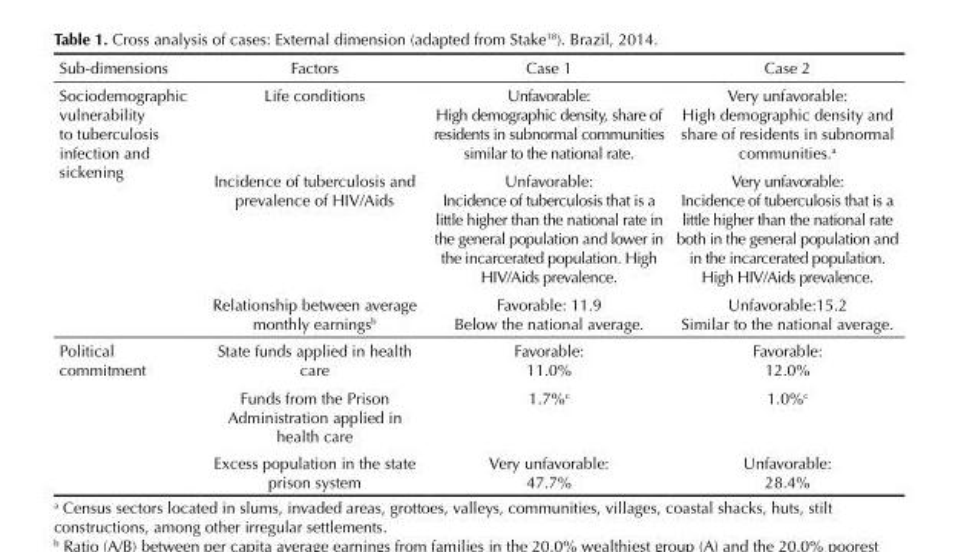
<table><thead><tr><td>Sub-dimensions</td><td>Factors</td><td>Case 1</td><td>Case 2</td></tr></thead><tbody><tr><td rowspan="3">Sociodemographic vulnerability to tuberculosis infection and sickening</td><td>Life conditions</td><td>Unfavorable: High demographic density, share of residents in subnormal communities similar to the national rate.</td><td>Very unfavorable: High demographic density and share of residents in subnormal communities.<sup>a</sup></td></tr><tr><td>Incidence of tuberculosis and prevalence of HIV/Aids</td><td>Unfavorable: Incidence of tuberculosis that is a little higher than the national rate in the general population and lower in the incarcerated population. High HIV/Aids prevalence.</td><td>Very unfavorable: Incidence of tuberculosis that is a little higher than the national rate both in the general population and in the incarcerated population. High HIV/Aids prevalence.</td></tr><tr><td>Relationship between average monthly earnings<sup>b</sup></td><td>Favorable: 11.9 Below the national average.</td><td>Unfavorable:15.2 Similar to the national average.</td></tr><tr><td rowspan="3">Political commitment</td><td>State funds applied in health care</td><td>Favorable: 11.0%</td><td>Favorable: 12.0%</td></tr><tr><td>Funds from the Prison Administration applied in health care</td><td>1.7%<sup>c</sup></td><td>1.0%<sup>c</sup></td></tr><tr><td>Excess population in the state prison system</td><td>Very unfavorable: 47.7%</td><td>Unfavorable: 28.4%</td></tr></tbody></table>